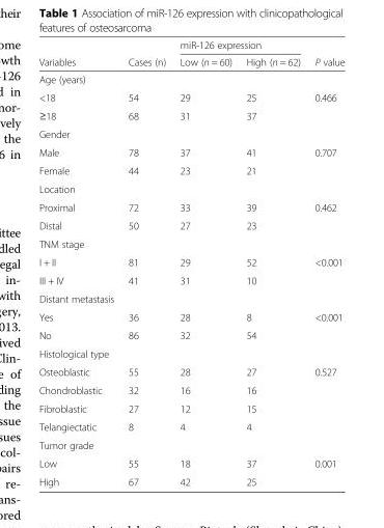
<table><thead><tr><td rowspan="2">Variables</td><td rowspan="2">Cases (n)</td><td colspan="2">miR-126 expression</td><td rowspan="2">P value</td></tr><tr><td>Low (n = 60)</td><td>High (n = 62)</td></tr></thead><tbody><tr><td colspan="5">Age (years)</td></tr><tr><td>&lt;18</td><td>54</td><td>29</td><td>25</td><td>0.466</td></tr><tr><td>≥18</td><td>68</td><td>31</td><td>37</td><td></td></tr><tr><td colspan="5">Gender</td></tr><tr><td>Male</td><td>78</td><td>37</td><td>41</td><td>0.707</td></tr><tr><td>Female</td><td>44</td><td>23</td><td>21</td><td></td></tr><tr><td colspan="5">Location</td></tr><tr><td>Proximal</td><td>72</td><td>33</td><td>39</td><td>0.462</td></tr><tr><td>Distal</td><td>50</td><td>27</td><td>23</td><td></td></tr><tr><td colspan="5">TNM stage</td></tr><tr><td>I + II</td><td>81</td><td>29</td><td>52</td><td>&lt;0.001</td></tr><tr><td>III + IV</td><td>41</td><td>31</td><td>10</td><td></td></tr><tr><td colspan="5">Distant metastasis</td></tr><tr><td>Yes</td><td>36</td><td>28</td><td>8</td><td>&lt;0.001</td></tr><tr><td>No</td><td>86</td><td>32</td><td>54</td><td></td></tr><tr><td colspan="5">Histological type</td></tr><tr><td>Osteoblastic</td><td>55</td><td>28</td><td>27</td><td>0.527</td></tr><tr><td>Chondroblastic</td><td>32</td><td>16</td><td>16</td><td></td></tr><tr><td>Fibroblastic</td><td>27</td><td>12</td><td>15</td><td></td></tr><tr><td>Telangiectatic</td><td>8</td><td>4</td><td>4</td><td></td></tr><tr><td colspan="5">Tumor grade</td></tr><tr><td>Low</td><td>55</td><td>18</td><td>37</td><td>0.001</td></tr><tr><td>High</td><td>67</td><td>42</td><td>25</td><td></td></tr></tbody></table>